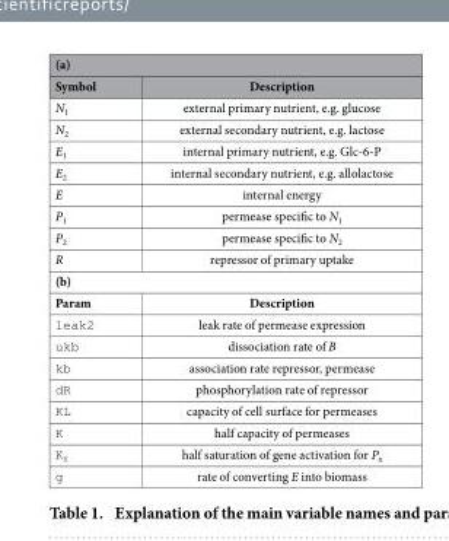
<table><thead><tr><td colspan="2">(a)</td></tr><tr><td>Symbol</td><td>Description</td></tr></thead><tbody><tr><td>N<sub>1</sub></td><td>external primary nutrient, e.g. glucose</td></tr><tr><td>N<sub>2</sub></td><td>external secondary nutrient, e.g. lactose</td></tr><tr><td>E<sub>1</sub></td><td>internal primary nutrient, e.g. Glc-6-P</td></tr><tr><td>E<sub>2</sub></td><td>internal secondary nutrient, e.g. allolactose</td></tr><tr><td>E</td><td>internal energy</td></tr><tr><td>P<sub>1</sub></td><td>permease specific to N<sub>1</sub></td></tr><tr><td>P<sub>2</sub></td><td>permease specific to N<sub>2</sub></td></tr><tr><td>R</td><td>repressor of primary uptake</td></tr><tr><td colspan="2">(b)</td></tr><tr><td>Param</td><td>Description</td></tr><tr><td>leak2</td><td>leak rate of permease expression</td></tr><tr><td>ukb</td><td>dissociation rate of B</td></tr><tr><td>kb</td><td>association rate repressor, permease</td></tr><tr><td>dR</td><td>phosphorylation rate of repressor</td></tr><tr><td>KL</td><td>capacity of cell surface for permeases</td></tr><tr><td>K</td><td>half capacity of permeases</td></tr><tr><td>K<sub>X</sub></td><td>half saturation of gene activation for P<sub>x</sub></td></tr><tr><td>g</td><td>rate of converting E into biomass</td></tr></tbody></table>